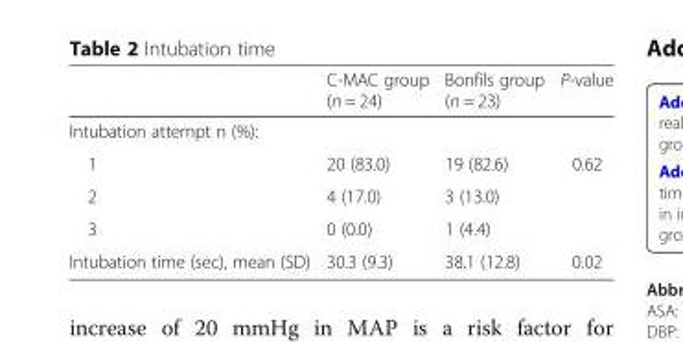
<table><thead><tr><td></td><td>C-MAC group (n = 24)</td><td>Bonfils group (n = 23)</td><td>P-value</td></tr></thead><tbody><tr><td colspan="4">Intubation attempt n (%):</td></tr><tr><td>1</td><td>20 (83.0)</td><td>19 (82.6)</td><td rowspan="3">0.62</td></tr><tr><td>2</td><td>4 (17.0)</td><td>3 (13.0)</td></tr><tr><td>3</td><td>0 (0.0)</td><td>1 (4.4)</td></tr><tr><td>Intubation time (sec), mean (SD)</td><td>30.3 (9.3)</td><td>38.1 (12.8)</td><td>0.02</td></tr></tbody></table>